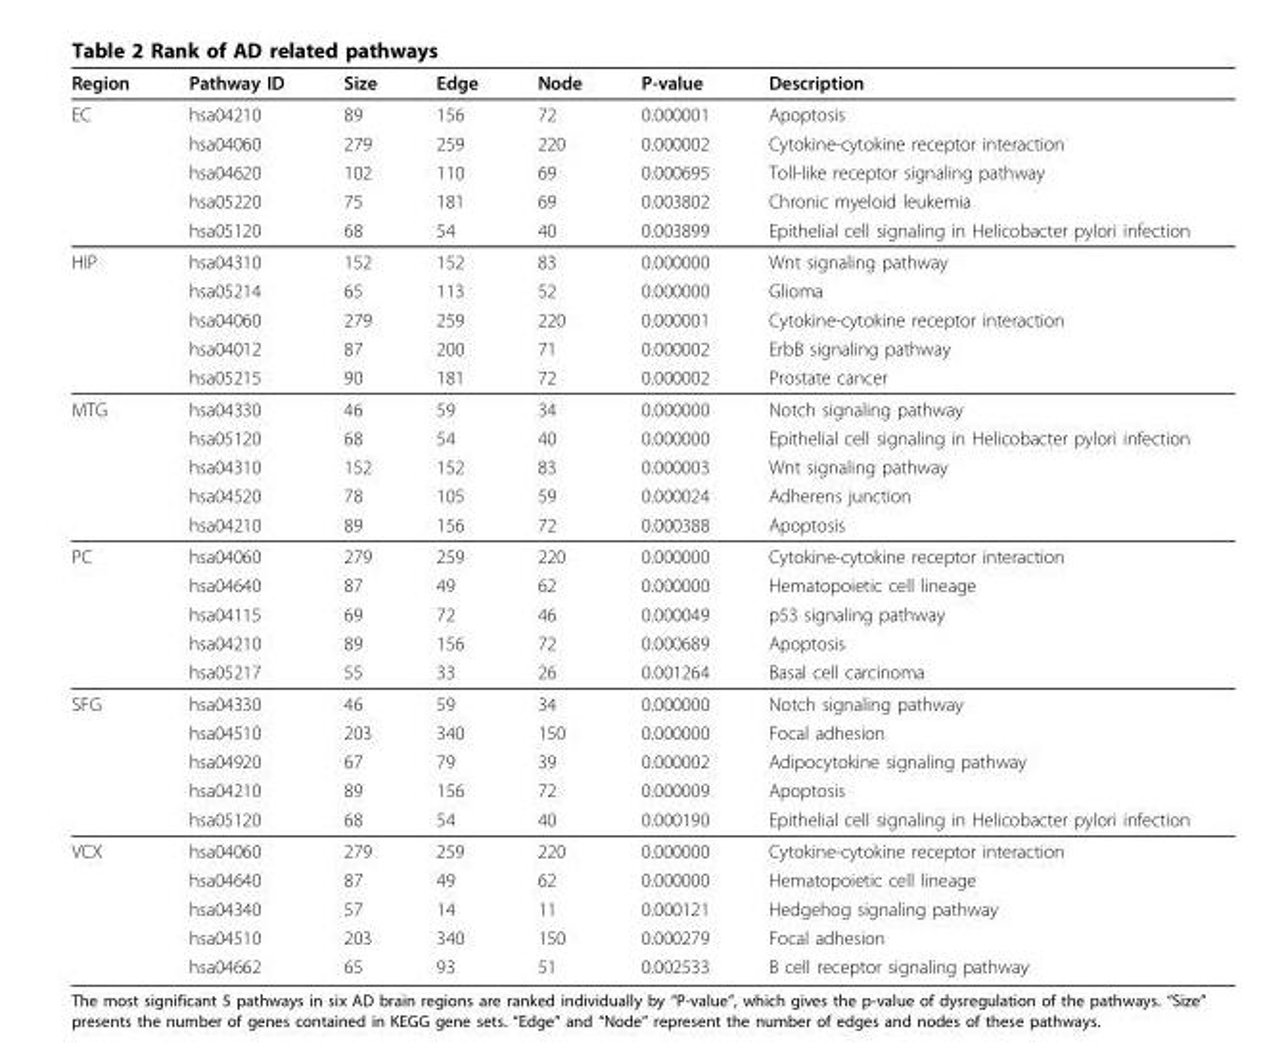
<table><thead><tr><td>Region</td><td>Pathway ID</td><td>Size</td><td>Edge</td><td>Node</td><td>P-value</td><td>Description</td></tr></thead><tbody><tr><td rowspan="5">EC</td><td>hsa04210</td><td>89</td><td>156</td><td>72</td><td>0.000001</td><td>Apoptosis</td></tr><tr><td>hsa04060</td><td>279</td><td>259</td><td>220</td><td>0.000002</td><td>Cytokine-cytokine receptor interaction</td></tr><tr><td>hsa04620</td><td>102</td><td>110</td><td>69</td><td>0.000695</td><td>Toll-like receptor signaling pathway</td></tr><tr><td>hsa05220</td><td>75</td><td>181</td><td>69</td><td>0.003802</td><td>Chronic myeloid leukemia</td></tr><tr><td>hsa05120</td><td>68</td><td>54</td><td>40</td><td>0.003899</td><td>Epithelial cell signaling in Helicobacter pylori infection</td></tr><tr><td rowspan="5">HIP</td><td>hsa04310</td><td>152</td><td>152</td><td>83</td><td>0.000000</td><td>Wnt signaling pathway</td></tr><tr><td>hsa05214</td><td>65</td><td>113</td><td>52</td><td>0.000000</td><td>Glioma</td></tr><tr><td>hsa04060</td><td>279</td><td>259</td><td>220</td><td>0.000001</td><td>Cytokine-cytokine receptor interaction</td></tr><tr><td>hsa04012</td><td>87</td><td>200</td><td>71</td><td>0.000002</td><td>ErbB signaling pathway</td></tr><tr><td>hsa05215</td><td>90</td><td>181</td><td>72</td><td>0.000002</td><td>Prostate cancer</td></tr><tr><td rowspan="5">MTG</td><td>hsa04330</td><td>46</td><td>59</td><td>34</td><td>0.000000</td><td>Notch signaling pathway</td></tr><tr><td>hsa05120</td><td>68</td><td>54</td><td>40</td><td>0.000000</td><td>Epithelial cell signaling in Helicobacter pylori infection</td></tr><tr><td>hsa04310</td><td>152</td><td>152</td><td>83</td><td>0.000003</td><td>Wnt signaling pathway</td></tr><tr><td>hsa04520</td><td>78</td><td>105</td><td>59</td><td>0.000024</td><td>Adherens junction</td></tr><tr><td>hsa04210</td><td>89</td><td>156</td><td>72</td><td>0.000388</td><td>Apoptosis</td></tr><tr><td rowspan="5">PC</td><td>hsa04060</td><td>279</td><td>259</td><td>220</td><td>0.000000</td><td>Cytokine-cytokine receptor interaction</td></tr><tr><td>hsa04640</td><td>87</td><td>49</td><td>62</td><td>0.000000</td><td>Hematopoietic cell lineage</td></tr><tr><td>hsa04115</td><td>69</td><td>72</td><td>46</td><td>0.000049</td><td>p53 signaling pathway</td></tr><tr><td>hsa04210</td><td>89</td><td>156</td><td>72</td><td>0.000689</td><td>Apoptosis</td></tr><tr><td>hsa05217</td><td>55</td><td>33</td><td>26</td><td>0.001264</td><td>Basal cell carcinoma</td></tr><tr><td rowspan="5">SFG</td><td>hsa04330</td><td>46</td><td>59</td><td>34</td><td>0.000000</td><td>Notch signaling pathway</td></tr><tr><td>hsa04510</td><td>203</td><td>340</td><td>150</td><td>0.000000</td><td>Focal adhesion</td></tr><tr><td>hsa04920</td><td>67</td><td>79</td><td>39</td><td>0.000002</td><td>Adipocytokine signaling pathway</td></tr><tr><td>hsa04210</td><td>89</td><td>156</td><td>72</td><td>0.000009</td><td>Apoptosis</td></tr><tr><td>hsa05120</td><td>68</td><td>54</td><td>40</td><td>0.000190</td><td>Epithelial cell signaling in Helicobacter pylori infection</td></tr><tr><td rowspan="5">VCX</td><td>hsa04060</td><td>279</td><td>259</td><td>220</td><td>0.000000</td><td>Cytokine-cytokine receptor interaction</td></tr><tr><td>hsa04640</td><td>87</td><td>49</td><td>62</td><td>0.000000</td><td>Hematopoietic cell lineage</td></tr><tr><td>hsa04340</td><td>57</td><td>14</td><td>11</td><td>0.000121</td><td>Hedgehog signaling pathway</td></tr><tr><td>hsa04510</td><td>203</td><td>340</td><td>150</td><td>0.000279</td><td>Focal adhesion</td></tr><tr><td>hsa04662</td><td>65</td><td>93</td><td>51</td><td>0.002533</td><td>B cell receptor signaling pathway</td></tr></tbody></table>